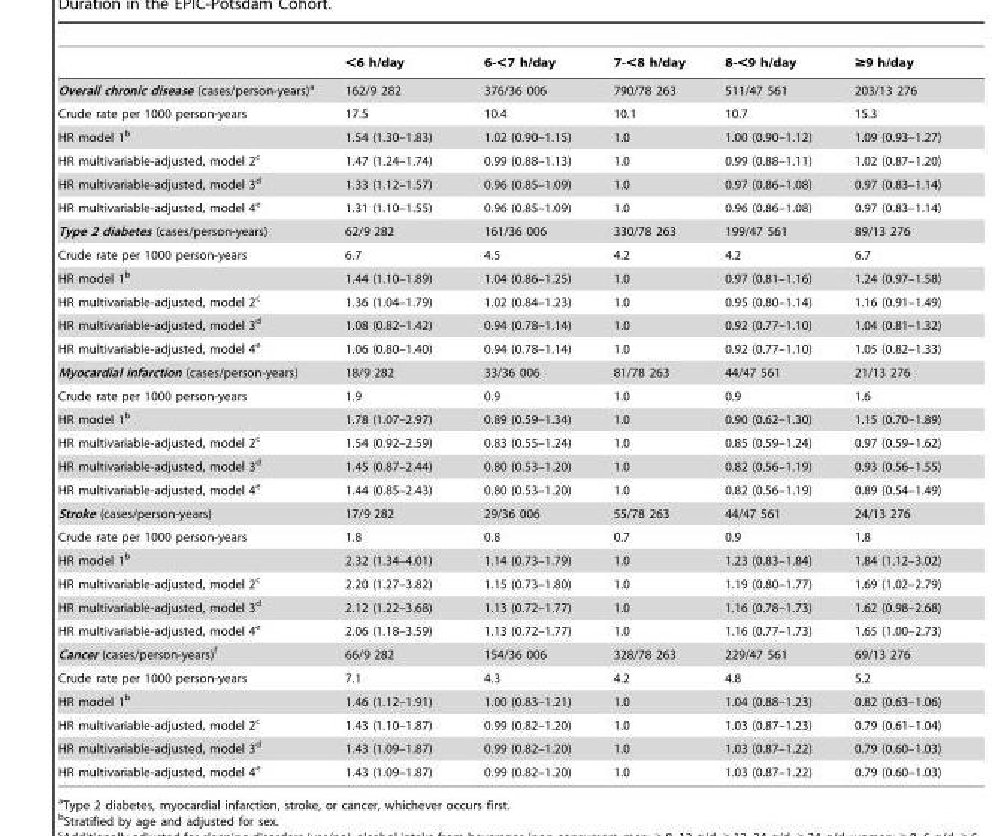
<table><thead><tr><td></td><td>&lt;6 h/day</td><td>6-&lt;7 h/day</td><td>7-&lt;8 h/day</td><td>8-&lt;9 h/day</td><td>≥9 h/day</td></tr></thead><tbody><tr><td>Overall chronic disease (cases/person-years)<sup>a</sup></td><td>162/9 282</td><td>376/36 006</td><td>790/78 263</td><td>511/47 561</td><td>203/13 276</td></tr><tr><td>Crude rate per 1000 person-years</td><td>17.5</td><td>10.4</td><td>10.1</td><td>10.7</td><td>15.3</td></tr><tr><td>HR model 1<sup>b</sup></td><td>1.54 (1.30–1.83)</td><td>1.02 (0.90–1.15)</td><td>1.0</td><td>1.00 (0.90–1.12)</td><td>1.09 (0.93–1.27)</td></tr><tr><td>HR multivariable-adjusted, model 2<sup>c</sup></td><td>1.47 (1.24–1.74)</td><td>0.99 (0.88–1.13)</td><td>1.0</td><td>0.99 (0.88–1.11)</td><td>1.02 (0.87–1.20)</td></tr><tr><td>HR multivariable-adjusted, model 3<sup>d</sup></td><td>1.33 (1.12–1.57)</td><td>0.96 (0.85–1.09)</td><td>1.0</td><td>0.97 (0.86–1.08)</td><td>0.97 (0.83–1.14)</td></tr><tr><td>HR multivariable-adjusted, model 4<sup>e</sup></td><td>1.31 (1.10–1.55)</td><td>0.96 (0.85–1.09)</td><td>1.0</td><td>0.96 (0.86–1.08)</td><td>0.97 (0.83–1.14)</td></tr><tr><td>Type 2 diabetes (cases/person-years)</td><td>62/9 282</td><td>161/36 006</td><td>330/78 263</td><td>199/47 561</td><td>89/13 276</td></tr><tr><td>Crude rate per 1000 person-years</td><td>6.7</td><td>4.5</td><td>4.2</td><td>4.2</td><td>6.7</td></tr><tr><td>HR model 1<sup>b</sup></td><td>1.44 (1.10–1.89)</td><td>1.04 (0.86–1.25)</td><td>1.0</td><td>0.97 (0.81–1.16)</td><td>1.24 (0.97–1.58)</td></tr><tr><td>HR multivariable-adjusted, model 2<sup>c</sup></td><td>1.36 (1.04–1.79)</td><td>1.02 (0.84–1.23)</td><td>1.0</td><td>0.95 (0.80–1.14)</td><td>1.16 (0.91–1.49)</td></tr><tr><td>HR multivariable-adjusted, model 3<sup>d</sup></td><td>1.08 (0.82–1.42)</td><td>0.94 (0.78–1.14)</td><td>1.0</td><td>0.92 (0.77–1.10)</td><td>1.04 (0.81–1.32)</td></tr><tr><td>HR multivariable-adjusted, model 4<sup>e</sup></td><td>1.06 (0.80–1.40)</td><td>0.94 (0.78–1.14)</td><td>1.0</td><td>0.92 (0.77–1.10)</td><td>1.05 (0.82–1.33)</td></tr><tr><td>Myocardial infarction (cases/person-years)</td><td>18/9 282</td><td>33/36 006</td><td>81/78 263</td><td>44/47 561</td><td>21/13 276</td></tr><tr><td>Crude rate per 1000 person-years</td><td>1.9</td><td>0.9</td><td>1.0</td><td>0.9</td><td>1.6</td></tr><tr><td>HR model 1<sup>b</sup></td><td>1.78 (1.07–2.97)</td><td>0.89 (0.59–1.34)</td><td>1.0</td><td>0.90 (0.62–1.30)</td><td>1.15 (0.70–1.89)</td></tr><tr><td>HR multivariable-adjusted, model 2<sup>c</sup></td><td>1.54 (0.92–2.59)</td><td>0.83 (0.55–1.24)</td><td>1.0</td><td>0.85 (0.59–1.24)</td><td>0.97 (0.59–1.62)</td></tr><tr><td>HR multivariable-adjusted, model 3<sup>d</sup></td><td>1.45 (0.87–2.44)</td><td>0.80 (0.53–1.20)</td><td>1.0</td><td>0.82 (0.56–1.19)</td><td>0.93 (0.56–1.55)</td></tr><tr><td>HR multivariable-adjusted, model 4<sup>e</sup></td><td>1.44 (0.85–2.43)</td><td>0.80 (0.53–1.20)</td><td>1.0</td><td>0.82 (0.56–1.19)</td><td>0.89 (0.54–1.49)</td></tr><tr><td>Stroke (cases/person-years)</td><td>17/9 282</td><td>29/36 006</td><td>55/78 263</td><td>44/47 561</td><td>24/13 276</td></tr><tr><td>Crude rate per 1000 person-years</td><td>1.8</td><td>0.8</td><td>0.7</td><td>0.9</td><td>1.8</td></tr><tr><td>HR model 1<sup>b</sup></td><td>2.32 (1.34–4.01)</td><td>1.14 (0.73–1.79)</td><td>1.0</td><td>1.23 (0.83–1.84)</td><td>1.84 (1.12–3.02)</td></tr><tr><td>HR multivariable-adjusted, model 2<sup>c</sup></td><td>2.20 (1.27–3.82)</td><td>1.15 (0.73–1.80)</td><td>1.0</td><td>1.19 (0.80–1.77)</td><td>1.69 (1.02–2.79)</td></tr><tr><td>HR multivariable-adjusted, model 3<sup>d</sup></td><td>2.12 (1.22–3.68)</td><td>1.13 (0.72–1.77)</td><td>1.0</td><td>1.16 (0.78–1.73)</td><td>1.62 (0.98–2.68)</td></tr><tr><td>HR multivariable-adjusted, model 4<sup>e</sup></td><td>2.06 (1.18–3.59)</td><td>1.13 (0.72–1.77)</td><td>1.0</td><td>1.16 (0.77–1.73)</td><td>1.65 (1.00–2.73)</td></tr><tr><td>Cancer (cases/person-years)<sup>f</sup></td><td>66/9 282</td><td>154/36 006</td><td>328/78 263</td><td>229/47 561</td><td>69/13 276</td></tr><tr><td>Crude rate per 1000 person-years</td><td>7.1</td><td>4.3</td><td>4.2</td><td>4.8</td><td>5.2</td></tr><tr><td>HR model 1<sup>b</sup></td><td>1.46 (1.12–1.91)</td><td>1.00 (0.83–1.21)</td><td>1.0</td><td>1.04 (0.88–1.23)</td><td>0.82 (0.63–1.06)</td></tr><tr><td>HR multivariable-adjusted, model 2<sup>c</sup></td><td>1.43 (1.10–1.87)</td><td>0.99 (0.82–1.20)</td><td>1.0</td><td>1.03 (0.87–1.23)</td><td>0.79 (0.61–1.04)</td></tr><tr><td>HR multivariable-adjusted, model 3<sup>d</sup></td><td>1.43 (1.09–1.87)</td><td>0.99 (0.82–1.20)</td><td>1.0</td><td>1.03 (0.87–1.22)</td><td>0.79 (0.60–1.03)</td></tr><tr><td>HR multivariable-adjusted, model 4<sup>e</sup></td><td>1.43 (1.09–1.87)</td><td>0.99 (0.82–1.20)</td><td>1.0</td><td>1.03 (0.87–1.22)</td><td>0.79 (0.60–1.03)</td></tr></tbody></table>